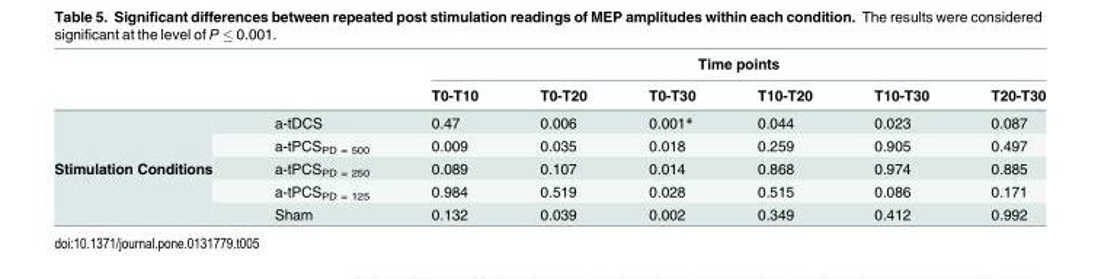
<table><thead><tr><td rowspan="2"></td><td rowspan="2"></td><td colspan="6">Time points</td></tr><tr><td>T0-T10</td><td>T0-T20</td><td>T0-T30</td><td>T10-T20</td><td>T10-T30</td><td>T20-T30</td></tr></thead><tbody><tr><td rowspan="5">Stimulation Conditions</td><td>a-tDCS</td><td>0.47</td><td>0.006</td><td>0.001*</td><td>0.044</td><td>0.023</td><td>0.087</td></tr><tr><td>a-tPCS<sub>PD = 500</sub></td><td>0.009</td><td>0.035</td><td>0.018</td><td>0.259</td><td>0.905</td><td>0.497</td></tr><tr><td>a-tPCS<sub>PD = 250</sub></td><td>0.089</td><td>0.107</td><td>0.014</td><td>0.868</td><td>0.974</td><td>0.885</td></tr><tr><td>a-tPCS<sub>PD = 125</sub></td><td>0.984</td><td>0.519</td><td>0.028</td><td>0.515</td><td>0.086</td><td>0.171</td></tr><tr><td>Sham</td><td>0.132</td><td>0.039</td><td>0.002</td><td>0.349</td><td>0.412</td><td>0.992</td></tr></tbody></table>